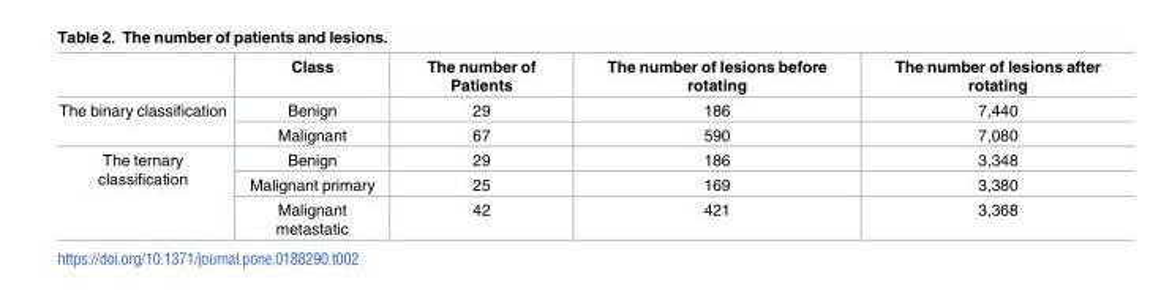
<table><thead><tr><td></td><td>Class</td><td>The number of Patients</td><td>The number of lesions before rotating</td><td>The number of lesions after rotating</td></tr></thead><tbody><tr><td rowspan="2">The binary classification</td><td>Benign</td><td>29</td><td>186</td><td>7,440</td></tr><tr><td>Malignant</td><td>67</td><td>590</td><td>7,080</td></tr><tr><td rowspan="3">The ternary classification</td><td>Benign</td><td>29</td><td>186</td><td>3,348</td></tr><tr><td>Malignant primary</td><td>25</td><td>169</td><td>3,380</td></tr><tr><td>Malignant metastatic</td><td>42</td><td>421</td><td>3,368</td></tr></tbody></table>